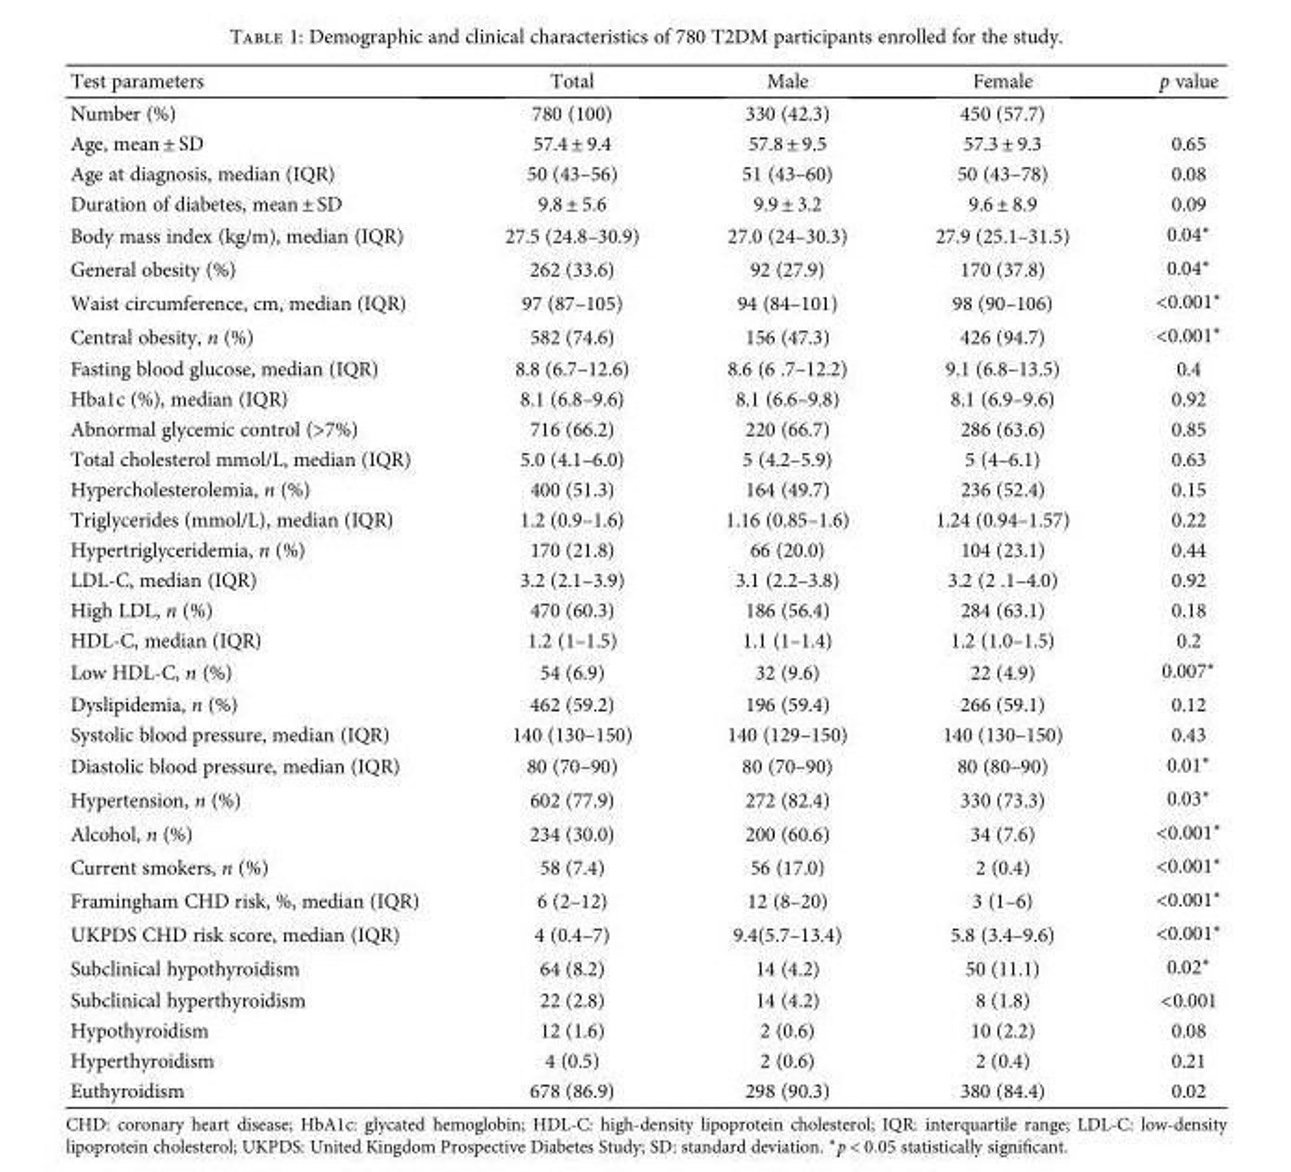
<table><thead><tr><td>Test parameters</td><td>Total</td><td>Male</td><td>Female</td><td>p value</td></tr></thead><tbody><tr><td>Number (%)</td><td>780 (100)</td><td>330 (42.3)</td><td>450 (57.7)</td><td></td></tr><tr><td>Age, mean ± SD</td><td>57.4 ± 9.4</td><td>57.8 ± 9.5</td><td>57.3 ± 9.3</td><td>0.65</td></tr><tr><td>Age at diagnosis, median (IQR)</td><td>50 (43–56)</td><td>51 (43–60)</td><td>50 (43–78)</td><td>0.08</td></tr><tr><td>Duration of diabetes, mean ± SD</td><td>9.8 ± 5.6</td><td>9.9 ± 3.2</td><td>9.6 ± 8.9</td><td>0.09</td></tr><tr><td>Body mass index (kg/m), median (IQR)</td><td>27.5 (24.8–30.9)</td><td>27.0 (24–30.3)</td><td>27.9 (25.1–31.5)</td><td>0.04∗</td></tr><tr><td>General obesity (%)</td><td>262 (33.6)</td><td>92 (27.9)</td><td>170 (37.8)</td><td>0.04∗</td></tr><tr><td>Waist circumference, cm, median (IQR)</td><td>97 (87–105)</td><td>94 (84–101)</td><td>98 (90–106)</td><td>&lt;0.001∗</td></tr><tr><td>Central obesity, n (%)</td><td>582 (74.6)</td><td>156 (47.3)</td><td>426 (94.7)</td><td>&lt;0.001∗</td></tr><tr><td>Fasting blood glucose, median (IQR)</td><td>8.8 (6.7–12.6)</td><td>8.6 (6 .7–12.2)</td><td>9.1 (6.8–13.5)</td><td>0.4</td></tr><tr><td>Hba1c (%), median (IQR)</td><td>8.1 (6.8–9.6)</td><td>8.1 (6.6–9.8)</td><td>8.1 (6.9–9.6)</td><td>0.92</td></tr><tr><td>Abnormal glycemic control (&gt;7%)</td><td>716 (66.2)</td><td>220 (66.7)</td><td>286 (63.6)</td><td>0.85</td></tr><tr><td>Total cholesterol mmol/L, median (IQR)</td><td>5.0 (4.1–6.0)</td><td>5 (4.2–5.9)</td><td>5 (4–6.1)</td><td>0.63</td></tr><tr><td>Hypercholesterolemia, n (%)</td><td>400 (51.3)</td><td>164 (49.7)</td><td>236 (52.4)</td><td>0.15</td></tr><tr><td>Triglycerides (mmol/L), median (IQR)</td><td>1.2 (0.9–1.6)</td><td>1.16 (0.85–1.6)</td><td>1.24 (0.94–1.57)</td><td>0.22</td></tr><tr><td>Hypertriglyceridemia, n (%)</td><td>170 (21.8)</td><td>66 (20.0)</td><td>104 (23.1)</td><td>0.44</td></tr><tr><td>LDL-C, median (IQR)</td><td>3.2 (2.1–3.9)</td><td>3.1 (2.2–3.8)</td><td>3.2 (2 .1–4.0)</td><td>0.92</td></tr><tr><td>High LDL, n (%)</td><td>470 (60.3)</td><td>186 (56.4)</td><td>284 (63.1)</td><td>0.18</td></tr><tr><td>HDL-C, median (IQR)</td><td>1.2 (1–1.5)</td><td>1.1 (1–1.4)</td><td>1.2 (1.0–1.5)</td><td>0.2</td></tr><tr><td>Low HDL-C, n (%)</td><td>54 (6.9)</td><td>32 (9.6)</td><td>22 (4.9)</td><td>0.007∗</td></tr><tr><td>Dyslipidemia, n (%)</td><td>462 (59.2)</td><td>196 (59.4)</td><td>266 (59.1)</td><td>0.12</td></tr><tr><td>Systolic blood pressure, median (IQR)</td><td>140 (130–150)</td><td>140 (129–150)</td><td>140 (130–150)</td><td>0.43</td></tr><tr><td>Diastolic blood pressure, median (IQR)</td><td>80 (70–90)</td><td>80 (70–90)</td><td>80 (80–90)</td><td>0.01∗</td></tr><tr><td>Hypertension, n (%)</td><td>602 (77.9)</td><td>272 (82.4)</td><td>330 (73.3)</td><td>0.03∗</td></tr><tr><td>Alcohol, n (%)</td><td>234 (30.0)</td><td>200 (60.6)</td><td>34 (7.6)</td><td>&lt;0.001∗</td></tr><tr><td>Current smokers, n (%)</td><td>58 (7.4)</td><td>56 (17.0)</td><td>2 (0.4)</td><td>&lt;0.001∗</td></tr><tr><td>Framingham CHD risk, %, median (IQR)</td><td>6 (2–12)</td><td>12 (8–20)</td><td>3 (1–6)</td><td>&lt;0.001∗</td></tr><tr><td>UKPDS CHD risk score, median (IQR)</td><td>4 (0.4–7)</td><td>9.4(5.7–13.4)</td><td>5.8 (3.4–9.6)</td><td>&lt;0.001∗</td></tr><tr><td>Subclinical hypothyroidism</td><td>64 (8.2)</td><td>14 (4.2)</td><td>50 (11.1)</td><td>0.02∗</td></tr><tr><td>Subclinical hyperthyroidism</td><td>22 (2.8)</td><td>14 (4.2)</td><td>8 (1.8)</td><td>&lt;0.001</td></tr><tr><td>Hypothyroidism</td><td>12 (1.6)</td><td>2 (0.6)</td><td>10 (2.2)</td><td>0.08</td></tr><tr><td>Hyperthyroidism</td><td>4 (0.5)</td><td>2 (0.6)</td><td>2 (0.4)</td><td>0.21</td></tr><tr><td>Euthyroidism</td><td>678 (86.9)</td><td>298 (90.3)</td><td>380 (84.4)</td><td>0.02</td></tr></tbody></table>